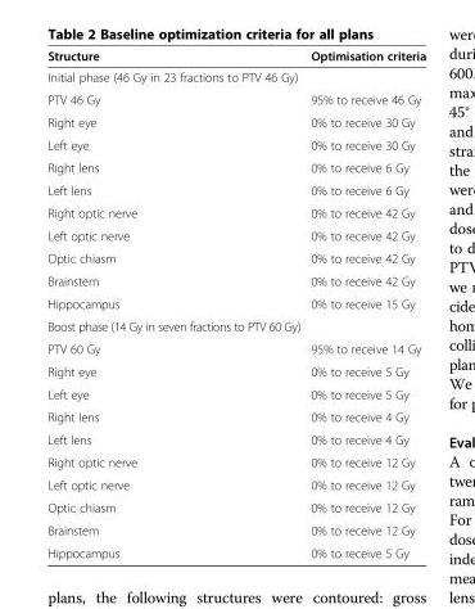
<table><thead><tr><td>Structure</td><td>Optimisation criteria</td></tr></thead><tbody><tr><td colspan="2">Initial phase (46 Gy in 23 fractions to PTV 46 Gy)</td></tr><tr><td>PTV 46 Gy</td><td>95% to receive 46 Gy</td></tr><tr><td>Right eye</td><td>0% to receive 30 Gy</td></tr><tr><td>Left eye</td><td>0% to receive 30 Gy</td></tr><tr><td>Right lens</td><td>0% to receive 6 Gy</td></tr><tr><td>Left lens</td><td>0% to receive 6 Gy</td></tr><tr><td>Right optic nerve</td><td>0% to receive 42 Gy</td></tr><tr><td>Left optic nerve</td><td>0% to receive 42 Gy</td></tr><tr><td>Optic chiasm</td><td>0% to receive 42 Gy</td></tr><tr><td>Brainstem</td><td>0% to receive 42 Gy</td></tr><tr><td>Hippocampus</td><td>0% to receive 15 Gy</td></tr><tr><td colspan="2">Boost phase (14 Gy in seven fractions to PTV 60 Gy)</td></tr><tr><td>PTV 60 Gy</td><td>95% to receive 14 Gy</td></tr><tr><td>Right eye</td><td>0% to receive 5 Gy</td></tr><tr><td>Left eye</td><td>0% to receive 5 Gy</td></tr><tr><td>Right lens</td><td>0% to receive 4 Gy</td></tr><tr><td>Left lens</td><td>0% to receive 4 Gy</td></tr><tr><td>Right optic nerve</td><td>0% to receive 12 Gy</td></tr><tr><td>Left optic nerve</td><td>0% to receive 12 Gy</td></tr><tr><td>Optic chiasm</td><td>0% to receive 12 Gy</td></tr><tr><td>Brainstem</td><td>0% to receive 12 Gy</td></tr><tr><td>Hippocampus</td><td>0% to receive 5 Gy</td></tr></tbody></table>